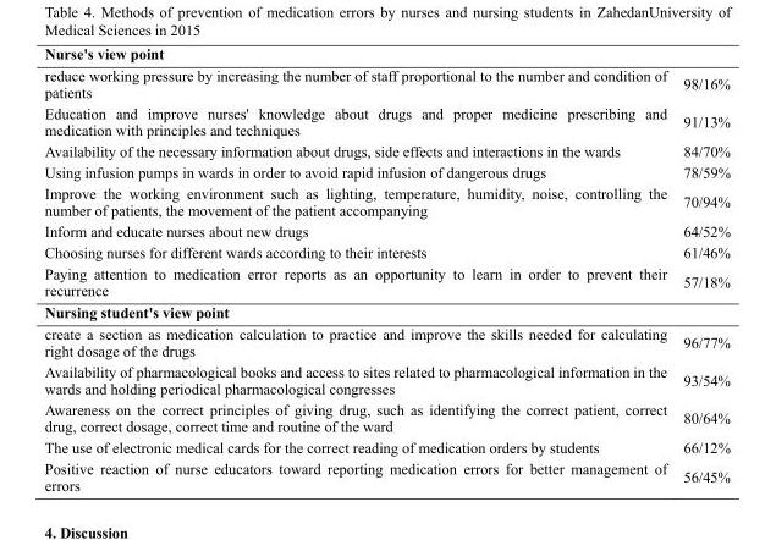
<table><thead><tr><td colspan="2">Nurse&#x27;s view point</td></tr><tr><td>reduce working pressure by increasing the number of staff proportional to the number and condition of patients</td><td>% 16 / 98</td></tr></thead><tbody><tr><td>Education and improve nurses&#x27; knowledge about drugs and proper medicine prescribing and medication with principles and techniques</td><td>% 13 / 91</td></tr><tr><td>Availability of the necessary information about drugs, side effects and interactions in the wards</td><td>% 70 / 84</td></tr><tr><td>Using infusion pumps in wards in order to avoid rapid infusion of dangerous drugs</td><td>% 59 / 78</td></tr><tr><td>Improve the working environment such as lighting, temperature, humidity, noise, controlling the number of patients, the movement of the patient accompanying</td><td>% 94 / 70</td></tr><tr><td>Inform and educate nurses about new drugs</td><td>% 52 / 64</td></tr><tr><td>Choosing nurses for different wards according to their interests</td><td>% 46 / 61</td></tr><tr><td>Paying attention to medication error reports as an opportunity to learn in order to prevent their recurrence</td><td>% 18 / 57</td></tr><tr><td colspan="2">Nursing student&#x27;s view point</td></tr><tr><td>create a section as medication calculation to practice and improve the skills needed for calculating right dosage of the drugs</td><td>% 77 / 96</td></tr><tr><td>Availability of pharmacological books and access to sites related to pharmacological information in the wards and holding periodical pharmacological congresses</td><td>% 54 / 93</td></tr><tr><td>Awareness on the correct principles of giving drug, such as identifying the correct patient, correct drug, correct dosage, correct time and routine of the ward</td><td>% 64 / 80</td></tr><tr><td>The use of electronic medical cards for the correct reading of medication orders by students</td><td>% 12 / 66</td></tr><tr><td>Positive reaction of nurse educators toward reporting medication errors for better management of errors</td><td>% 45 / 56</td></tr></tbody></table>